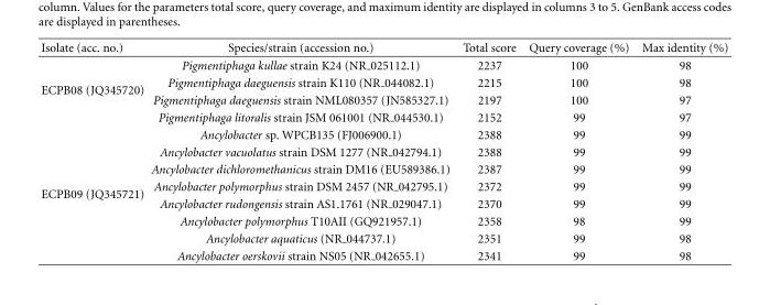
<table><thead><tr><td>Isolate (acc. no.)</td><td>Species/strain (accession no.)</td><td>Total score</td><td>Query coverage (%)</td><td>Max identity (%)</td></tr></thead><tbody><tr><td rowspan="4">ECPB08 (JQ345720)</td><td>Pigmentiphaga kullae strain K24 (NR 025112.1)</td><td>2237</td><td>100</td><td>98</td></tr><tr><td>Pigmentiphaga daeguensis strain K110 (NR 044082.1)</td><td>2215</td><td>100</td><td>98</td></tr><tr><td>Pigmentiphaga daeguensis strain NML080357 (JN585327.1)</td><td>2197</td><td>100</td><td>97</td></tr><tr><td>Pigmentiphaga litoralis strain JSM 061001 (NR 044530.1)</td><td>2152</td><td>99</td><td>97</td></tr><tr><td rowspan="8">ECPB09 (JQ345721)</td><td>Ancylobacter sp. WPCB135 (FJ006900.1)</td><td>2388</td><td>99</td><td>99</td></tr><tr><td>Ancylobacter vacuolatus strain DSM 1277 (NR 042794.1)</td><td>2388</td><td>99</td><td>99</td></tr><tr><td>Ancylobacter dichloromethanicus strain DM16 (EU589386.1)</td><td>2387</td><td>99</td><td>99</td></tr><tr><td>Ancylobacter polymorphus strain DSM 2457 (NR 042795.1)</td><td>2372</td><td>99</td><td>99</td></tr><tr><td>Ancylobacter rudongensis strain AS1.1761 (NR 029047.1)</td><td>2370</td><td>99</td><td>99</td></tr><tr><td>Ancylobacter polymorphus T10AII (GQ921957.1)</td><td>2358</td><td>98</td><td>99</td></tr><tr><td>Ancylobacter aquaticus (NR 044737.1)</td><td>2351</td><td>99</td><td>98</td></tr><tr><td>Ancylobacter oerskovii strain NS05 (NR 042655.1)</td><td>2341</td><td>99</td><td>98</td></tr></tbody></table>